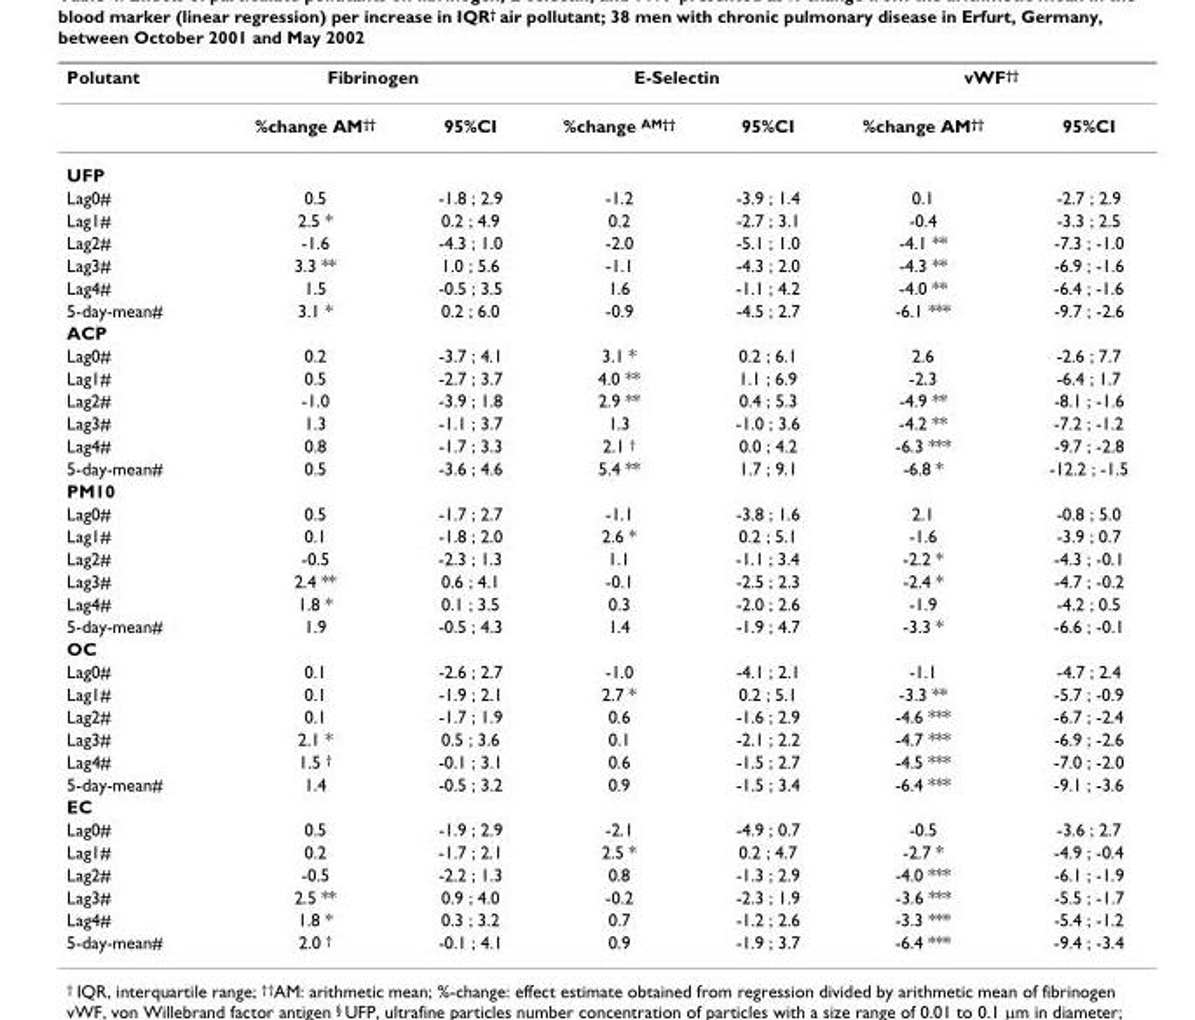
<table><thead><tr><td rowspan="2">Polutant</td><td colspan="2">Fibrinogen</td><td colspan="2">E-Selectin</td><td colspan="2">vWF<sup>††</sup></td></tr><tr><td>%change AM<sup>††</sup></td><td>95%CI</td><td>%change <sup>AM††</sup></td><td>95%CI</td><td>%change AM<sup>††</sup></td><td>95%CI</td></tr></thead><tbody><tr><td colspan="7">UFP</td></tr><tr><td>Lag0#</td><td>0.5</td><td>-1.8 ; 2.9</td><td>-1.2</td><td>-3.9 ; 1.4</td><td>0.1</td><td>-2.7 ; 2.9</td></tr><tr><td>Lag1#</td><td>2.5 *</td><td>0.2 ; 4.9</td><td>0.2</td><td>-2.7 ; 3.1</td><td>-0.4</td><td>-3.3 ; 2.5</td></tr><tr><td>Lag2#</td><td>-1.6</td><td>-4.3 ; 1.0</td><td>-2.0</td><td>-5.1 ; 1.0</td><td>-4.1 **</td><td>-7.3 ; -1.0</td></tr><tr><td>Lag3#</td><td>3.3 **</td><td>1.0 ; 5.6</td><td>-1.1</td><td>-4.3 ; 2.0</td><td>-4.3 **</td><td>-6.9 ; -1.6</td></tr><tr><td>Lag4#</td><td>1.5</td><td>-0.5 ; 3.5</td><td>1.6</td><td>-1.1 ; 4.2</td><td>-4.0 **</td><td>-6.4 ; -1.6</td></tr><tr><td>5-day-mean#</td><td>3.1 *</td><td>0.2 ; 6.0</td><td>-0.9</td><td>-4.5 ; 2.7</td><td>-6.1 ***</td><td>-9.7 ; -2.6</td></tr><tr><td colspan="7">ACP</td></tr><tr><td>Lag0#</td><td>0.2</td><td>-3.7 ; 4.1</td><td>3.1 *</td><td>0.2 ; 6.1</td><td>2.6</td><td>-2.6 ; 7.7</td></tr><tr><td>Lag1#</td><td>0.5</td><td>-2.7 ; 3.7</td><td>4.0 **</td><td>1.1 ; 6.9</td><td>-2.3</td><td>-6.4 ; 1.7</td></tr><tr><td>Lag2#</td><td>-1.0</td><td>-3.9 ; 1.8</td><td>2.9 **</td><td>0.4 ; 5.3</td><td>-4.9 **</td><td>-8.1 ; -1.6</td></tr><tr><td>Lag3#</td><td>1.3</td><td>-1.1 ; 3.7</td><td>1.3</td><td>-1.0 ; 3.6</td><td>-4.2 **</td><td>-7.2 ; -1.2</td></tr><tr><td>Lag4#</td><td>0.8</td><td>-1.7 ; 3.3</td><td>2.1 <sup>†</sup></td><td>0.0 ; 4.2</td><td>-6.3 ***</td><td>-9.7 ; -2.8</td></tr><tr><td>5-day-mean#</td><td>0.5</td><td>-3.6 ; 4.6</td><td>5.4 **</td><td>1.7 ; 9.1</td><td>-6.8 *</td><td>-12.2 ; -1.5</td></tr><tr><td colspan="7">PM10</td></tr><tr><td>Lag0#</td><td>0.5</td><td>-1.7 ; 2.7</td><td>-1.1</td><td>-3.8 ; 1.6</td><td>2.1</td><td>-0.8 ; 5.0</td></tr><tr><td>Lag1#</td><td>0.1</td><td>-1.8 ; 2.0</td><td>2.6 *</td><td>0.2 ; 5.1</td><td>-1.6</td><td>-3.9 ; 0.7</td></tr><tr><td>Lag2#</td><td>-0.5</td><td>-2.3 ; 1.3</td><td>1.1</td><td>-1.1 ; 3.4</td><td>-2.2 *</td><td>-4.3 ; -0.1</td></tr><tr><td>Lag3#</td><td>2.4 **</td><td>0.6 ; 4.1</td><td>-0.1</td><td>-2.5 ; 2.3</td><td>-2.4 *</td><td>-4.7 ; -0.2</td></tr><tr><td>Lag4#</td><td>1.8 *</td><td>0.1 ; 3.5</td><td>0.3</td><td>-2.0 ; 2.6</td><td>-1.9</td><td>-4.2 ; 0.5</td></tr><tr><td>5-day-mean#</td><td>1.9</td><td>-0.5 ; 4.3</td><td>1.4</td><td>-1.9 ; 4.7</td><td>-3.3 *</td><td>-6.6 ; -0.1</td></tr><tr><td colspan="7">OC</td></tr><tr><td>Lag0#</td><td>0.1</td><td>-2.6 ; 2.7</td><td>-1.0</td><td>-4.1 ; 2.1</td><td>-1.1</td><td>-4.7 ; 2.4</td></tr><tr><td>Lag1#</td><td>0.1</td><td>-1.9 ; 2.1</td><td>2.7 *</td><td>0.2 ; 5.1</td><td>-3.3 **</td><td>-5.7 ; -0.9</td></tr><tr><td>Lag2#</td><td>0.1</td><td>-1.7 ; 1.9</td><td>0.6</td><td>-1.6 ; 2.9</td><td>-4.6 ***</td><td>-6.7 ; -2.4</td></tr><tr><td>Lag3#</td><td>2.1 *</td><td>0.5 ; 3.6</td><td>0.1</td><td>-2.1 ; 2.2</td><td>-4.7 ***</td><td>-6.9 ; -2.6</td></tr><tr><td>Lag4#</td><td>1.5 <sup>†</sup></td><td>-0.1 ; 3.1</td><td>0.6</td><td>-1.5 ; 2.7</td><td>-4.5 ***</td><td>-7.0 ; -2.0</td></tr><tr><td>5-day-mean#</td><td>1.4</td><td>-0.5 ; 3.2</td><td>0.9</td><td>-1.5 ; 3.4</td><td>-6.4 ***</td><td>-9.1 ; -3.6</td></tr><tr><td colspan="7">EC</td></tr><tr><td>Lag0#</td><td>0.5</td><td>-1.9 ; 2.9</td><td>-2.1</td><td>-4.9 ; 0.7</td><td>-0.5</td><td>-3.6 ; 2.7</td></tr><tr><td>Lag1#</td><td>0.2</td><td>-1.7 ; 2.1</td><td>2.5 *</td><td>0.2 ; 4.7</td><td>-2.7 *</td><td>-4.9 ; -0.4</td></tr><tr><td>Lag2#</td><td>-0.5</td><td>-2.2 ; 1.3</td><td>0.8</td><td>-1.3 ; 2.9</td><td>-4.0 ***</td><td>-6.1 ; -1.9</td></tr><tr><td>Lag3#</td><td>2.5 **</td><td>0.9 ; 4.0</td><td>-0.2</td><td>-2.3 ; 1.9</td><td>-3.6 ***</td><td>-5.5 ; -1.7</td></tr><tr><td>Lag4#</td><td>1.8 *</td><td>0.3 ; 3.2</td><td>0.7</td><td>-1.2 ; 2.6</td><td>-3.3 ***</td><td>-5.4 ; -1.2</td></tr><tr><td>5-day-mean#</td><td>2.0 <sup>†</sup></td><td>-0.1 ; 4.1</td><td>0.9</td><td>-1.9 ; 3.7</td><td>-6.4 ***</td><td>-9.4 ; -3.4</td></tr></tbody></table>